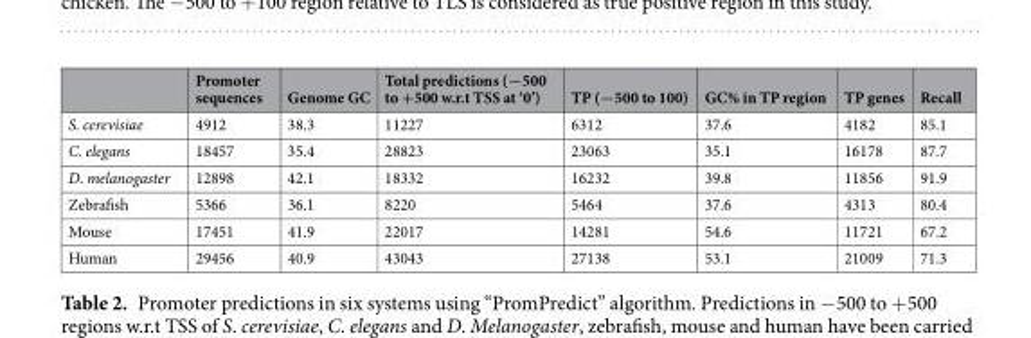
<table><thead><tr><td></td><td>Promoter sequences</td><td>Genome GC</td><td>Total predictions (−500 to +500 w.r.t TSS at ‘0’)</td><td>TP (−500 to 100)</td><td>GC% in TP region</td><td>TP genes</td><td>Recall</td></tr></thead><tbody><tr><td>S. cerevisiae</td><td>4912</td><td>38.3</td><td>11227</td><td>6312</td><td>37.6</td><td>4182</td><td>85.1</td></tr><tr><td>C. elegans</td><td>18457</td><td>35.4</td><td>28823</td><td>23063</td><td>35.1</td><td>16178</td><td>87.7</td></tr><tr><td>D. melanogaster</td><td>12898</td><td>42.1</td><td>18332</td><td>16232</td><td>39.8</td><td>11856</td><td>91.9</td></tr><tr><td>Zebrafish</td><td>5366</td><td>36.1</td><td>8220</td><td>5464</td><td>37.6</td><td>4313</td><td>80.4</td></tr><tr><td>Mouse</td><td>17451</td><td>41.9</td><td>22017</td><td>14281</td><td>54.6</td><td>11721</td><td>67.2</td></tr><tr><td>Human</td><td>29456</td><td>40.9</td><td>43043</td><td>27138</td><td>53.1</td><td>21009</td><td>71.3</td></tr></tbody></table>